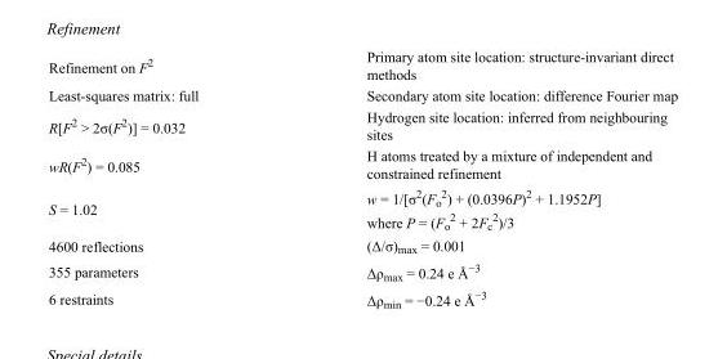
<table><tbody><tr><td>Refinement on F<sup>2</sup></td><td>Primary atom site location: structure-invariant direct methods</td></tr><tr><td>Least-squares matrix: full</td><td>Secondary atom site location: difference Fourier map</td></tr><tr><td>R[F<sup>2</sup> &gt; 2σ(F<sup>2</sup>)] = 0.032</td><td>Hydrogen site location: inferred from neighbouring sites</td></tr><tr><td>wR(F<sup>2</sup>) = 0.085</td><td>H atoms treated by a mixture of independent and constrained refinement</td></tr><tr><td>S = 1.02</td><td>w = 1/[σ<sup>2</sup>(F<sub>o</sub> <sup>2</sup>) + (0.0396P)<sup>2</sup> + 1.1952P] where P = (F<sub>o</sub> <sup>2</sup> + 2F<sub>c</sub> <sup>2</sup>)/3</td></tr><tr><td>4600 reflections</td><td>(Δ/σ)<sub>max</sub> = 0.001</td></tr><tr><td>355 parameters</td><td>Δρ<sub>max</sub> = 0.24 e Å<sup>−3</sup></td></tr><tr><td>6 restraints</td><td>Δρ<sub>min</sub> = −0.24 e Å<sup>−3</sup></td></tr></tbody></table>